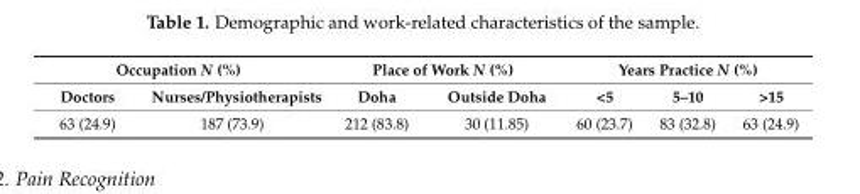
<table><thead><tr><td colspan="2">Occupation N (%)</td><td colspan="2">Place of Work N (%)</td><td colspan="3">Years Practice N (%)</td></tr><tr><td>Doctors</td><td>Nurses/Physiotherapists</td><td>Doha</td><td>Outside Doha</td><td>&lt;5</td><td>5–10</td><td>&gt;15</td></tr></thead><tbody><tr><td>63 (24.9)</td><td>187 (73.9)</td><td>212 (83.8)</td><td>30 (11.85)</td><td>60 (23.7)</td><td>83 (32.8)</td><td>63 (24.9)</td></tr></tbody></table>